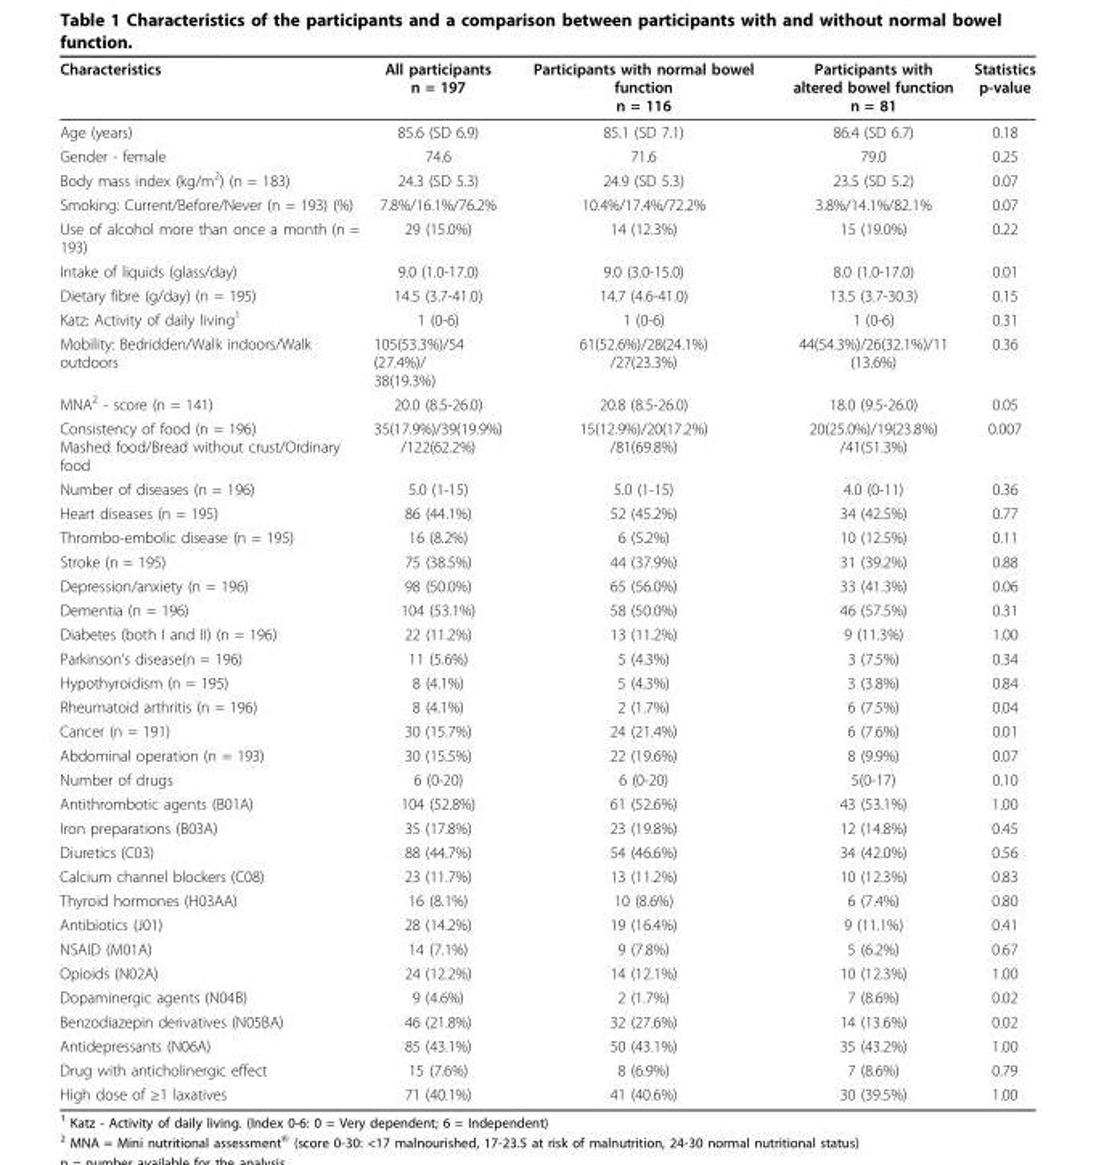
<table><thead><tr><td>Characteristics</td><td>All participants n = 197</td><td>Participants with normal bowel function n = 116</td><td>Participants with altered bowel function n = 81</td><td>Statistics p-value</td></tr></thead><tbody><tr><td>Age (years)</td><td>85.6 (SD 6.9)</td><td>85.1 (SD 7.1)</td><td>86.4 (SD 6.7)</td><td>0.18</td></tr><tr><td>Gender - female</td><td>74.6</td><td>71.6</td><td>79.0</td><td>0.25</td></tr><tr><td>Body mass index (kg/m<sup>2</sup>) (n = 183)</td><td>24.3 (SD 5.3)</td><td>24.9 (SD 5.3)</td><td>23.5 (SD 5.2)</td><td>0.07</td></tr><tr><td>Smoking: Current/Before/Never (n = 193) (%)</td><td>7.8%/16.1%/76.2%</td><td>10.4%/17.4%/72.2%</td><td>3.8%/14.1%/82.1%</td><td>0.07</td></tr><tr><td>Use of alcohol more than once a month (n = 193)</td><td>29 (15.0%)</td><td>14 (12.3%)</td><td>15 (19.0%)</td><td>0.22</td></tr><tr><td>Intake of liquids (glass/day)</td><td>9.0 (1.0-17.0)</td><td>9.0 (3.0-15.0)</td><td>8.0 (1.0-17.0)</td><td>0.01</td></tr><tr><td>Dietary fibre (g/day) (n = 195)</td><td>14.5 (3.7-41.0)</td><td>14.7 (4.6-41.0)</td><td>13.5 (3.7-30.3)</td><td>0.15</td></tr><tr><td>Katz: Activity of daily living<sup>1</sup></td><td>1 (0-6)</td><td>1 (0-6)</td><td>1 (0-6)</td><td>0.31</td></tr><tr><td>Mobility: Bedridden/Walk indoors/Walk outdoors</td><td>105(53.3%)/54 (27.4%)/ 38(19.3%)</td><td>61(52.6%)/28(24.1%) /27(23.3%)</td><td>44(54.3%)/26(32.1%)/11 (13.6%)</td><td>0.36</td></tr><tr><td>MNA<sup>2</sup> - score (n = 141)</td><td>20.0 (8.5-26.0)</td><td>20.8 (8.5-26.0)</td><td>18.0 (9.5-26.0)</td><td>0.05</td></tr><tr><td>Consistency of food (n = 196) Mashed food/Bread without crust/Ordinary food</td><td>35(17.9%)/39(19.9%) /122(62.2%)</td><td>15(12.9%)/20(17.2%) /81(69.8%)</td><td>20(25.0%)/19(23.8%) /41(51.3%)</td><td>0.007</td></tr><tr><td>Number of diseases (n = 196)</td><td>5.0 (1-15)</td><td>5.0 (1-15)</td><td>4.0 (0-11)</td><td>0.36</td></tr><tr><td>Heart diseases (n = 195)</td><td>86 (44.1%)</td><td>52 (45.2%)</td><td>34 (42.5%)</td><td>0.77</td></tr><tr><td>Thrombo-embolic disease (n = 195)</td><td>16 (8.2%)</td><td>6 (5.2%)</td><td>10 (12.5%)</td><td>0.11</td></tr><tr><td>Stroke (n = 195)</td><td>75 (38.5%)</td><td>44 (37.9%)</td><td>31 (39.2%)</td><td>0.88</td></tr><tr><td>Depression/anxiety (n = 196)</td><td>98 (50.0%)</td><td>65 (56.0%)</td><td>33 (41.3%)</td><td>0.06</td></tr><tr><td>Dementia (n = 196)</td><td>104 (53.1%)</td><td>58 (50.0%)</td><td>46 (57.5%)</td><td>0.31</td></tr><tr><td>Diabetes (both I and II) (n = 196)</td><td>22 (11.2%)</td><td>13 (11.2%)</td><td>9 (11.3%)</td><td>1.00</td></tr><tr><td>Parkinson’s disease(n = 196)</td><td>11 (5.6%)</td><td>5 (4.3%)</td><td>3 (7.5%)</td><td>0.34</td></tr><tr><td>Hypothyroidism (n = 195)</td><td>8 (4.1%)</td><td>5 (4.3%)</td><td>3 (3.8%)</td><td>0.84</td></tr><tr><td>Rheumatoid arthritis (n = 196)</td><td>8 (4.1%)</td><td>2 (1.7%)</td><td>6 (7.5%)</td><td>0.04</td></tr><tr><td>Cancer (n = 191)</td><td>30 (15.7%)</td><td>24 (21.4%)</td><td>6 (7.6%)</td><td>0.01</td></tr><tr><td>Abdominal operation (n = 193)</td><td>30 (15.5%)</td><td>22 (19.6%)</td><td>8 (9.9%)</td><td>0.07</td></tr><tr><td>Number of drugs</td><td>6 (0-20)</td><td>6 (0-20)</td><td>5(0-17)</td><td>0.10</td></tr><tr><td>Antithrombotic agents (B01A)</td><td>104 (52.8%)</td><td>61 (52.6%)</td><td>43 (53.1%)</td><td>1.00</td></tr><tr><td>Iron preparations (B03A)</td><td>35 (17.8%)</td><td>23 (19.8%)</td><td>12 (14.8%)</td><td>0.45</td></tr><tr><td>Diuretics (C03)</td><td>88 (44.7%)</td><td>54 (46.6%)</td><td>34 (42.0%)</td><td>0.56</td></tr><tr><td>Calcium channel blockers (C08)</td><td>23 (11.7%)</td><td>13 (11.2%)</td><td>10 (12.3%)</td><td>0.83</td></tr><tr><td>Thyroid hormones (H03AA)</td><td>16 (8.1%)</td><td>10 (8.6%)</td><td>6 (7.4%)</td><td>0.80</td></tr><tr><td>Antibiotics (J01)</td><td>28 (14.2%)</td><td>19 (16.4%)</td><td>9 (11.1%)</td><td>0.41</td></tr><tr><td>NSAID (M01A)</td><td>14 (7.1%)</td><td>9 (7.8%)</td><td>5 (6.2%)</td><td>0.67</td></tr><tr><td>Opioids (N02A)</td><td>24 (12.2%)</td><td>14 (12.1%)</td><td>10 (12.3%)</td><td>1.00</td></tr><tr><td>Dopaminergic agents (N04B)</td><td>9 (4.6%)</td><td>2 (1.7%)</td><td>7 (8.6%)</td><td>0.02</td></tr><tr><td>Benzodiazepin derivatives (N05BA)</td><td>46 (21.8%)</td><td>32 (27.6%)</td><td>14 (13.6%)</td><td>0.02</td></tr><tr><td>Antidepressants (N06A)</td><td>85 (43.1%)</td><td>50 (43.1%)</td><td>35 (43.2%)</td><td>1.00</td></tr><tr><td>Drug with anticholinergic effect</td><td>15 (7.6%)</td><td>8 (6.9%)</td><td>7 (8.6%)</td><td>0.79</td></tr><tr><td>High dose of ≥1 laxatives</td><td>71 (40.1%)</td><td>41 (40.6%)</td><td>30 (39.5%)</td><td>1.00</td></tr></tbody></table>